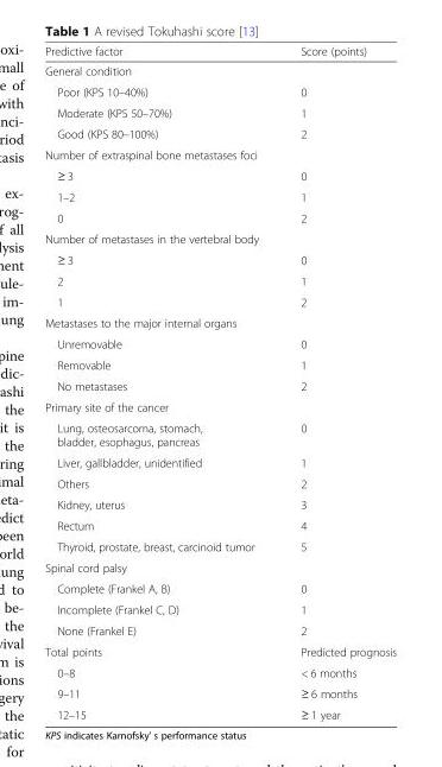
<table><thead><tr><td>Predictive factor</td><td>Score (points)</td></tr></thead><tbody><tr><td colspan="2">General condition</td></tr><tr><td>Poor (KPS 10–40%)</td><td>0</td></tr><tr><td>Moderate (KPS 50–70%)</td><td>1</td></tr><tr><td>Good (KPS 80–100%)</td><td>2</td></tr><tr><td colspan="2">Number of extraspinal bone metastases foci</td></tr><tr><td>≥ 3</td><td>0</td></tr><tr><td>1–2</td><td>1</td></tr><tr><td>0</td><td>2</td></tr><tr><td colspan="2">Number of metastases in the vertebral body</td></tr><tr><td>≥ 3</td><td>0</td></tr><tr><td>2</td><td>1</td></tr><tr><td>1</td><td>2</td></tr><tr><td colspan="2">Metastases to the major internal organs</td></tr><tr><td>Unremovable</td><td>0</td></tr><tr><td>Removable</td><td>1</td></tr><tr><td>No metastases</td><td>2</td></tr><tr><td colspan="2">Primary site of the cancer</td></tr><tr><td>Lung, osteosarcoma, stomach, bladder, esophagus, pancreas</td><td>0</td></tr><tr><td>Liver, gallbladder, unidentified</td><td>1</td></tr><tr><td>Others</td><td>2</td></tr><tr><td>Kidney, uterus</td><td>3</td></tr><tr><td>Rectum</td><td>4</td></tr><tr><td>Thyroid, prostate, breast, carcinoid tumor</td><td>5</td></tr><tr><td colspan="2">Spinal cord palsy</td></tr><tr><td>Complete (Frankel A, B)</td><td>0</td></tr><tr><td>Incomplete (Frankel C, D)</td><td>1</td></tr><tr><td>None (Frankel E)</td><td>2</td></tr><tr><td>Total points</td><td>Predicted prognosis</td></tr><tr><td>0–8</td><td>&lt; 6 months</td></tr><tr><td>9–11</td><td>≥ 6 months</td></tr><tr><td>12–15</td><td>≥ 1 year</td></tr></tbody></table>